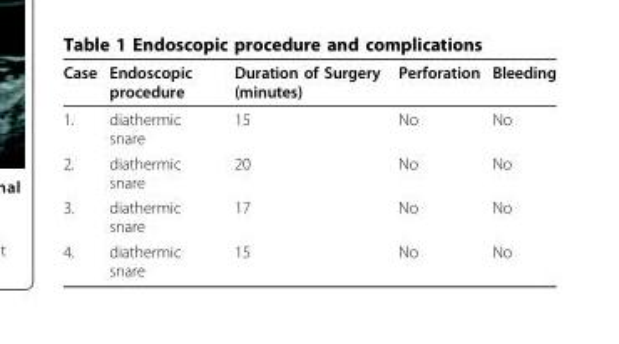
<table><thead><tr><td>Case</td><td>Endoscopic procedure</td><td>Duration of Surgery (minutes)</td><td>Perforation</td><td>Bleeding</td></tr></thead><tbody><tr><td>1.</td><td>diathermic snare</td><td>15</td><td>No</td><td>No</td></tr><tr><td>2.</td><td>diathermic snare</td><td>20</td><td>No</td><td>No</td></tr><tr><td>3.</td><td>diathermic snare</td><td>17</td><td>No</td><td>No</td></tr><tr><td>4.</td><td>diathermic snare</td><td>15</td><td>No</td><td>No</td></tr></tbody></table>